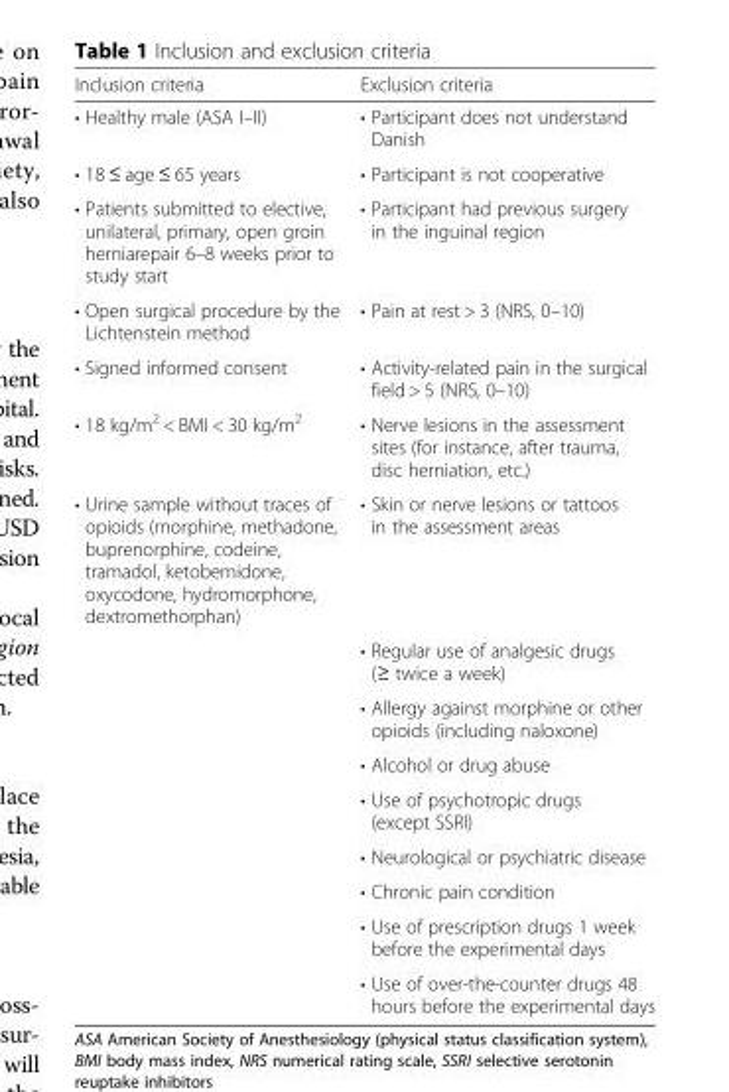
<table><thead><tr><td>Inclusion criteria</td><td>Exclusion criteria</td></tr></thead><tbody><tr><td>• Healthy male (ASA I–II)</td><td>• Participant does not understand Danish</td></tr><tr><td>• 18 ≤ age ≤ 65 years</td><td>• Participant is not cooperative</td></tr><tr><td>• Patients submitted to elective, unilateral, primary, open groin herniarepair 6–8 weeks prior to study start</td><td>• Participant had previous surgery in the inguinal region</td></tr><tr><td>• Open surgical procedure by the Lichtenstein method</td><td>• Pain at rest &gt; 3 (NRS, 0–10)</td></tr><tr><td>• Signed informed consent</td><td>• Activity-related pain in the surgical field &gt; 5 (NRS, 0–10)</td></tr><tr><td>• 18 kg/m<sup>2</sup> &lt; BMI &lt; 30 kg/m<sup>2</sup></td><td>• Nerve lesions in the assessment sites (for instance, after trauma, disc herniation, etc.)</td></tr><tr><td rowspan="9">• Urine sample without traces of opioids (morphine, methadone, buprenorphine, codeine, tramadol, ketobemidone, oxycodone, hydromorphone, dextromethorphan)</td><td>• Skin or nerve lesions or tattoos in the assessment areas</td></tr><tr><td>• Regular use of analgesic drugs (≥ twice a week)</td></tr><tr><td>• Allergy against morphine or other opioids (including naloxone)</td></tr><tr><td>• Alcohol or drug abuse</td></tr><tr><td>• Use of psychotropic drugs (except SSRI)</td></tr><tr><td>• Neurological or psychiatric disease</td></tr><tr><td>• Chronic pain condition</td></tr><tr><td>• Use of prescription drugs 1 week before the experimental days</td></tr><tr><td>• Use of over-the-counter drugs 48 hours before the experimental days</td></tr></tbody></table>